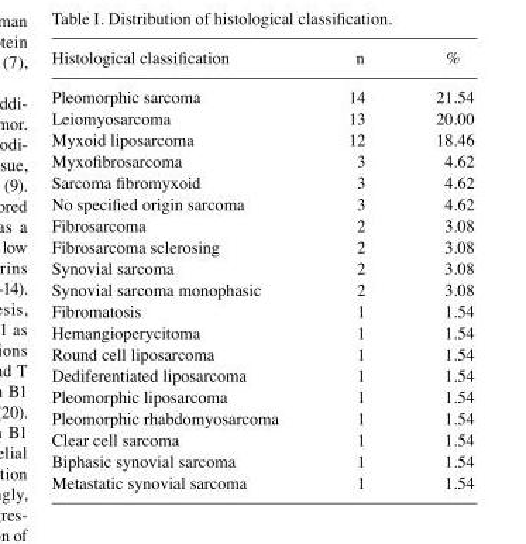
<table><thead><tr><td>Histological classification</td><td>n</td><td>%</td></tr></thead><tbody><tr><td>Pleomorphic sarcoma</td><td>14</td><td>21.54</td></tr><tr><td>Leiomyosarcoma</td><td>13</td><td>20.00</td></tr><tr><td>Myxoid liposarcoma</td><td>12</td><td>18.46</td></tr><tr><td>Myxofibrosarcoma</td><td>3</td><td>4.62</td></tr><tr><td>Sarcoma fibromyxoid</td><td>3</td><td>4.62</td></tr><tr><td>No specified origin sarcoma</td><td>3</td><td>4.62</td></tr><tr><td>Fibrosarcoma</td><td>2</td><td>3.08</td></tr><tr><td>Fibrosarcoma sclerosing</td><td>2</td><td>3.08</td></tr><tr><td>Synovial sarcoma</td><td>2</td><td>3.08</td></tr><tr><td>Synovial sarcoma monophasic</td><td>2</td><td>3.08</td></tr><tr><td>Fibromatosis</td><td>1</td><td>1.54</td></tr><tr><td>Hemangioperycitoma</td><td>1</td><td>1.54</td></tr><tr><td>Round cell liposarcoma</td><td>1</td><td>1.54</td></tr><tr><td>Dediferentiated liposarcoma</td><td>1</td><td>1.54</td></tr><tr><td>Pleomorphic liposarcoma</td><td>1</td><td>1.54</td></tr><tr><td>Pleomorphic rhabdomyosarcoma</td><td>1</td><td>1.54</td></tr><tr><td>Clear cell sarcoma</td><td>1</td><td>1.54</td></tr><tr><td>Biphasic synovial sarcoma</td><td>1</td><td>1.54</td></tr><tr><td>Metastatic synovial sarcoma</td><td>1</td><td>1.54</td></tr></tbody></table>